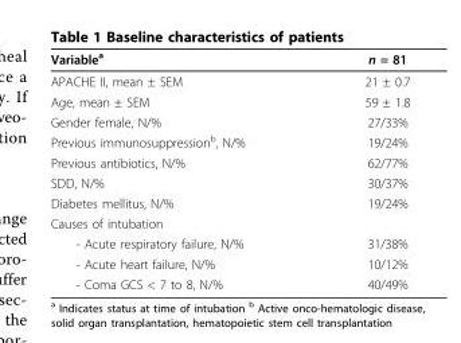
<table><thead><tr><td>Variable<sup>a</sup></td><td>n = 81</td></tr></thead><tbody><tr><td>APACHE II, mean ± SEM</td><td>21 ± 0.7</td></tr><tr><td>Age, mean ± SEM</td><td>59 ± 1.8</td></tr><tr><td>Gender female, N/%</td><td>27/33%</td></tr><tr><td>Previous immunosuppression<sup>b</sup>, N/%</td><td>19/24%</td></tr><tr><td>Previous antibiotics, N/%</td><td>62/77%</td></tr><tr><td>SDD, N/%</td><td>30/37%</td></tr><tr><td>Diabetes mellitus, N/%</td><td>19/24%</td></tr><tr><td colspan="2">Causes of intubation</td></tr><tr><td>- Acute respiratory failure, N/%</td><td>31/38%</td></tr><tr><td>- Acute heart failure, N/%</td><td>10/12%</td></tr><tr><td>- Coma GCS &lt; 7 to 8, N/%</td><td>40/49%</td></tr></tbody></table>